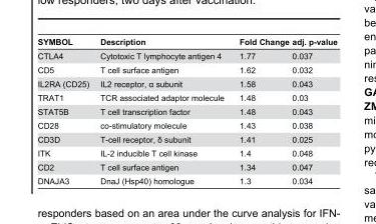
<table><thead><tr><td>SYMBOL</td><td>Description</td><td>Fold Change</td><td>adj. p-value</td></tr></thead><tbody><tr><td>CTLA4</td><td>Cytotoxic T lymphocyte antigen 4</td><td>1.77</td><td>0.037</td></tr><tr><td>CD5</td><td>T cell surface antigen</td><td>1.62</td><td>0.032</td></tr><tr><td>IL2RΑ (CD25)</td><td>IL2 receptor, α subunit</td><td>1.58</td><td>0.043</td></tr><tr><td>TRAT1</td><td>TCR associated adaptor molecule</td><td>1.48</td><td>0.03</td></tr><tr><td>STAT5B</td><td>T cell transcription factor</td><td>1.48</td><td>0.043</td></tr><tr><td>CD28</td><td>co-stimulatory molecule</td><td>1.43</td><td>0.038</td></tr><tr><td>CD3D</td><td>T-cell receptor, δ subunit</td><td>1.41</td><td>0.025</td></tr><tr><td>ITK</td><td>IL-2 inducible T cell kinase</td><td>1.4</td><td>0.048</td></tr><tr><td>CD2</td><td>T cell surface antigen</td><td>1.34</td><td>0.047</td></tr><tr><td>DNAJA3</td><td>DnaJ (Hsp40) homologue</td><td>1.3</td><td>0.034</td></tr></tbody></table>